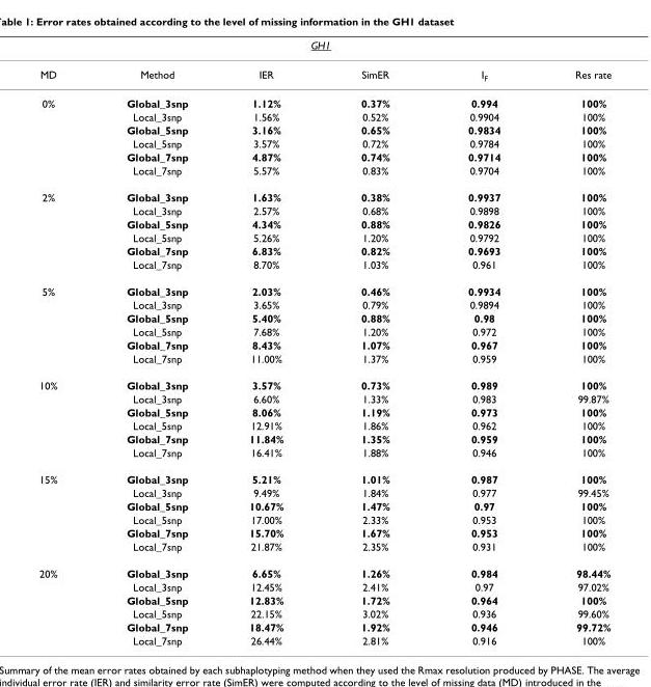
<table><thead><tr><td colspan="6">GH1</td></tr><tr><td>MD</td><td>Method</td><td>IER</td><td>SimER</td><td>I<sub>F</sub></td><td>Res rate</td></tr></thead><tbody><tr><td rowspan="6">0%</td><td>Global_3snp</td><td>1.12%</td><td>0.37%</td><td>0.994</td><td>100%</td></tr><tr><td>Local_3snp</td><td>1.56%</td><td>0.52%</td><td>0.9904</td><td>100%</td></tr><tr><td>Global_5snp</td><td>3.16%</td><td>0.65%</td><td>0.9834</td><td>100%</td></tr><tr><td>Local_5snp</td><td>3.57%</td><td>0.72%</td><td>0.9784</td><td>100%</td></tr><tr><td>Global_7snp</td><td>4.87%</td><td>0.74%</td><td>0.9714</td><td>100%</td></tr><tr><td>Local_7snp</td><td>5.57%</td><td>0.83%</td><td>0.9704</td><td>100%</td></tr><tr><td rowspan="6">2%</td><td>Global_3snp</td><td>1.63%</td><td>0.38%</td><td>0.9937</td><td>100%</td></tr><tr><td>Local_3snp</td><td>2.57%</td><td>0.68%</td><td>0.9898</td><td>100%</td></tr><tr><td>Global_5snp</td><td>4.34%</td><td>0.88%</td><td>0.9826</td><td>100%</td></tr><tr><td>Local_5snp</td><td>5.26%</td><td>1.20%</td><td>0.9792</td><td>100%</td></tr><tr><td>Global_7snp</td><td>6.83%</td><td>0.82%</td><td>0.9693</td><td>100%</td></tr><tr><td>Local_7snp</td><td>8.70%</td><td>1.03%</td><td>0.961</td><td>100%</td></tr><tr><td rowspan="6">5%</td><td>Global_3snp</td><td>2.03%</td><td>0.46%</td><td>0.9934</td><td>100%</td></tr><tr><td>Local_3snp</td><td>3.65%</td><td>0.79%</td><td>0.9894</td><td>100%</td></tr><tr><td>Global_5snp</td><td>5.40%</td><td>0.88%</td><td>0.98</td><td>100%</td></tr><tr><td>Local_5snp</td><td>7.68%</td><td>1.20%</td><td>0.972</td><td>100%</td></tr><tr><td>Global_7snp</td><td>8.43%</td><td>1.07%</td><td>0.967</td><td>100%</td></tr><tr><td>Local_7snp</td><td>11.00%</td><td>1.37%</td><td>0.959</td><td>100%</td></tr><tr><td rowspan="6">10%</td><td>Global_3snp</td><td>3.57%</td><td>0.73%</td><td>0.989</td><td>100%</td></tr><tr><td>Local_3snp</td><td>6.60%</td><td>1.33%</td><td>0.983</td><td>99.87%</td></tr><tr><td>Global_5snp</td><td>8.06%</td><td>1.19%</td><td>0.973</td><td>100%</td></tr><tr><td>Local_5snp</td><td>12.91%</td><td>1.86%</td><td>0.962</td><td>100%</td></tr><tr><td>Global_7snp</td><td>11.84%</td><td>1.35%</td><td>0.959</td><td>100%</td></tr><tr><td>Local_7snp</td><td>16.41%</td><td>1.88%</td><td>0.946</td><td>100%</td></tr><tr><td rowspan="6">15%</td><td>Global_3snp</td><td>5.21%</td><td>1.01%</td><td>0.987</td><td>100%</td></tr><tr><td>Local_3snp</td><td>9.49%</td><td>1.84%</td><td>0.977</td><td>99.45%</td></tr><tr><td>Global_5snp</td><td>10.67%</td><td>1.47%</td><td>0.97</td><td>100%</td></tr><tr><td>Local_5snp</td><td>17.00%</td><td>2.33%</td><td>0.953</td><td>100%</td></tr><tr><td>Global_7snp</td><td>15.70%</td><td>1.67%</td><td>0.953</td><td>100%</td></tr><tr><td>Local_7snp</td><td>21.87%</td><td>2.35%</td><td>0.931</td><td>100%</td></tr><tr><td rowspan="6">20%</td><td>Global_3snp</td><td>6.65%</td><td>1.26%</td><td>0.984</td><td>98.44%</td></tr><tr><td>Local_3snp</td><td>12.45%</td><td>2.41%</td><td>0.97</td><td>97.02%</td></tr><tr><td>Global_5snp</td><td>12.83%</td><td>1.72%</td><td>0.964</td><td>100%</td></tr><tr><td>Local_5snp</td><td>22.15%</td><td>3.02%</td><td>0.936</td><td>99.60%</td></tr><tr><td>Global_7snp</td><td>18.47%</td><td>1.92%</td><td>0.946</td><td>99.72%</td></tr><tr><td>Local_7snp</td><td>26.44%</td><td>2.81%</td><td>0.916</td><td>100%</td></tr></tbody></table>